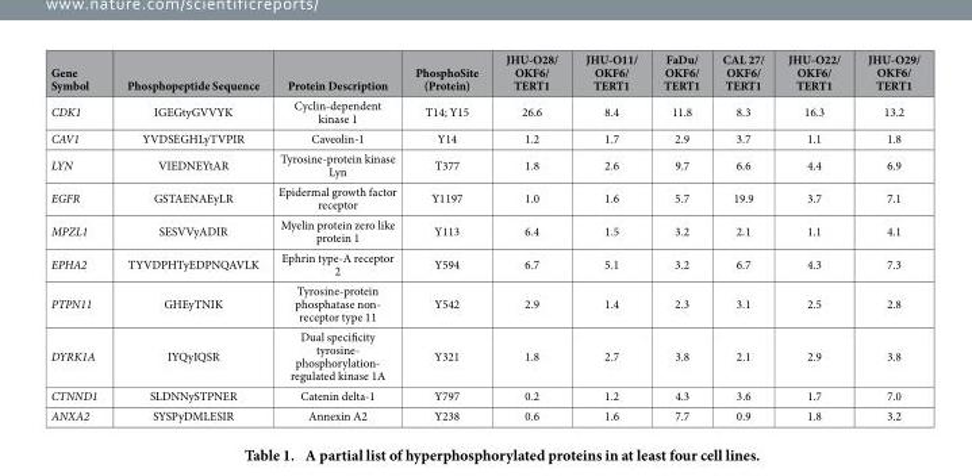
<table><thead><tr><td>Gene Symbol</td><td>Phosphopeptide Sequence</td><td>Protein Description</td><td>PhosphoSite (Protein)</td><td>JHU-O28/ OKF6/ TERT1</td><td>JHU-O11/ OKF6/ TERT1</td><td>FaDu/ OKF6/ TERT1</td><td>CAL 27/ OKF6/ TERT1</td><td>JHU-O22/ OKF6/ TERT1</td><td>JHU-O29/ OKF6/ TERT1</td></tr></thead><tbody><tr><td>CDK1</td><td>IGEGtyGVVYK</td><td>Cyclin-dependent kinase 1</td><td>T14; Y15</td><td>26.6</td><td>8.4</td><td>11.8</td><td>8.3</td><td>16.3</td><td>13.2</td></tr><tr><td>CAV1</td><td>YVDSEGHLyTVPIR</td><td>Caveolin-1</td><td>Y14</td><td>1.2</td><td>1.7</td><td>2.9</td><td>3.7</td><td>1.1</td><td>1.8</td></tr><tr><td>LYN</td><td>VIEDNEYtAR</td><td>Tyrosine-protein kinase Lyn</td><td>T377</td><td>1.8</td><td>2.6</td><td>9.7</td><td>6.6</td><td>4.4</td><td>6.9</td></tr><tr><td>EGFR</td><td>GSTAENAEyLR</td><td>Epidermal growth factor receptor</td><td>Y1197</td><td>1.0</td><td>1.6</td><td>5.7</td><td>19.9</td><td>3.7</td><td>7.1</td></tr><tr><td>MPZL1</td><td>SESVVyADIR</td><td>Myelin protein zero like protein 1</td><td>Y113</td><td>6.4</td><td>1.5</td><td>3.2</td><td>2.1</td><td>1.1</td><td>4.1</td></tr><tr><td>EPHA2</td><td>TYVDPHTyEDPNQAVLK</td><td>Ephrin type-A receptor 2</td><td>Y594</td><td>6.7</td><td>5.1</td><td>3.2</td><td>6.7</td><td>4.3</td><td>7.3</td></tr><tr><td>PTPN11</td><td>GHEyTNIK</td><td>Tyrosine-protein phosphatase non- receptor type 11</td><td>Y542</td><td>2.9</td><td>1.4</td><td>2.3</td><td>3.1</td><td>2.5</td><td>2.8</td></tr><tr><td>DYRK1A</td><td>IYQyIQSR</td><td>Dual specificity tyrosine- phosphorylation- regulated kinase 1A</td><td>Y321</td><td>1.8</td><td>2.7</td><td>3.8</td><td>2.1</td><td>2.9</td><td>3.8</td></tr><tr><td>CTNND1</td><td>SLDNNySTPNER</td><td>Catenin delta-1</td><td>Y797</td><td>0.2</td><td>1.2</td><td>4.3</td><td>3.6</td><td>1.7</td><td>7.0</td></tr><tr><td>ANXA2</td><td>SYSPyDMLESIR</td><td>Annexin A2</td><td>Y238</td><td>0.6</td><td>1.6</td><td>7.7</td><td>0.9</td><td>1.8</td><td>3.2</td></tr></tbody></table>